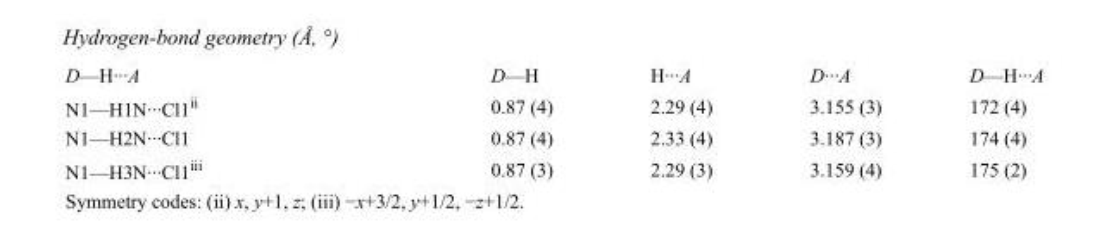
<table><tbody><tr><td>D—H···A</td><td>D—H</td><td>H···A</td><td>D···A</td><td>D—H···A</td></tr><tr><td>N1—H1N···Cl1<sup>ii</sup></td><td>0.87 (4)</td><td>2.29 (4)</td><td>3.155 (3)</td><td>172 (4)</td></tr><tr><td>N1—H2N···Cl1</td><td>0.87 (4)</td><td>2.33 (4)</td><td>3.187 (3)</td><td>174 (4)</td></tr><tr><td>N1—H3N···Cl1<sup>iii</sup></td><td>0.87 (3)</td><td>2.29 (3)</td><td>3.159 (4)</td><td>175 (2)</td></tr></tbody></table>